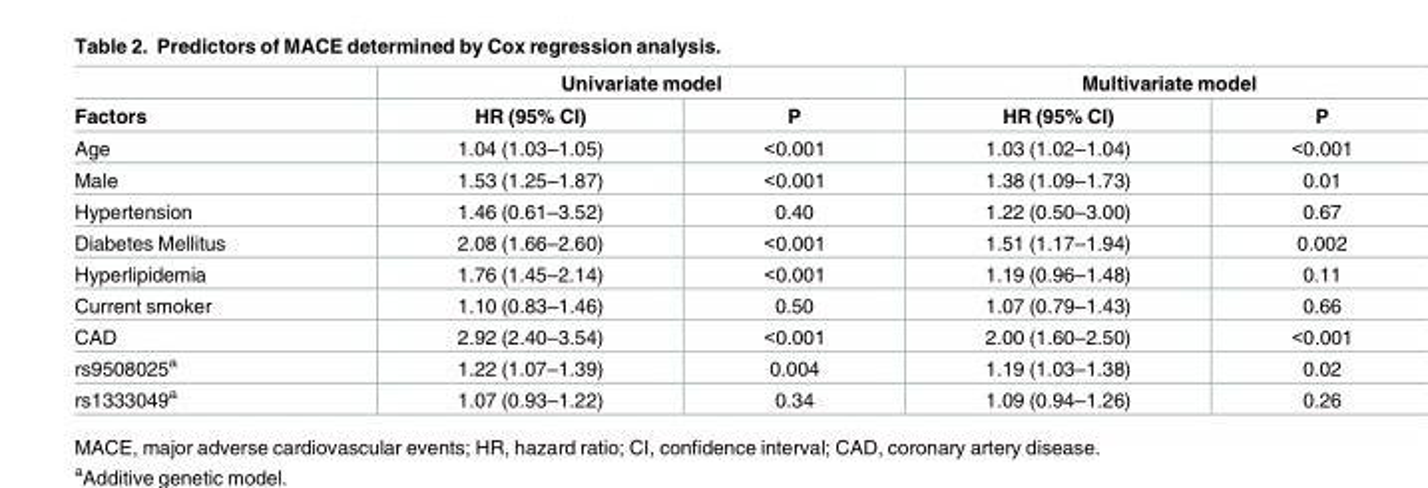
<table><thead><tr><td rowspan="2">Factors</td><td colspan="2">Univariate model</td><td colspan="2">Multivariate model</td></tr><tr><td>HR (95% CI)</td><td>P</td><td>HR (95% CI)</td><td>P</td></tr></thead><tbody><tr><td>Age</td><td>1.04 (1.03–1.05)</td><td>&lt;0.001</td><td>1.03 (1.02–1.04)</td><td>&lt;0.001</td></tr><tr><td>Male</td><td>1.53 (1.25–1.87)</td><td>&lt;0.001</td><td>1.38 (1.09–1.73)</td><td>0.01</td></tr><tr><td>Hypertension</td><td>1.46 (0.61–3.52)</td><td>0.40</td><td>1.22 (0.50–3.00)</td><td>0.67</td></tr><tr><td>Diabetes Mellitus</td><td>2.08 (1.66–2.60)</td><td>&lt;0.001</td><td>1.51 (1.17–1.94)</td><td>0.002</td></tr><tr><td>Hyperlipidemia</td><td>1.76 (1.45–2.14)</td><td>&lt;0.001</td><td>1.19 (0.96–1.48)</td><td>0.11</td></tr><tr><td>Current smoker</td><td>1.10 (0.83–1.46)</td><td>0.50</td><td>1.07 (0.79–1.43)</td><td>0.66</td></tr><tr><td>CAD</td><td>2.92 (2.40–3.54)</td><td>&lt;0.001</td><td>2.00 (1.60–2.50)</td><td>&lt;0.001</td></tr><tr><td>rs9508025<sup>a</sup></td><td>1.22 (1.07–1.39)</td><td>0.004</td><td>1.19 (1.03–1.38)</td><td>0.02</td></tr><tr><td>rs1333049<sup>a</sup></td><td>1.07 (0.93–1.22)</td><td>0.34</td><td>1.09 (0.94–1.26)</td><td>0.26</td></tr></tbody></table>